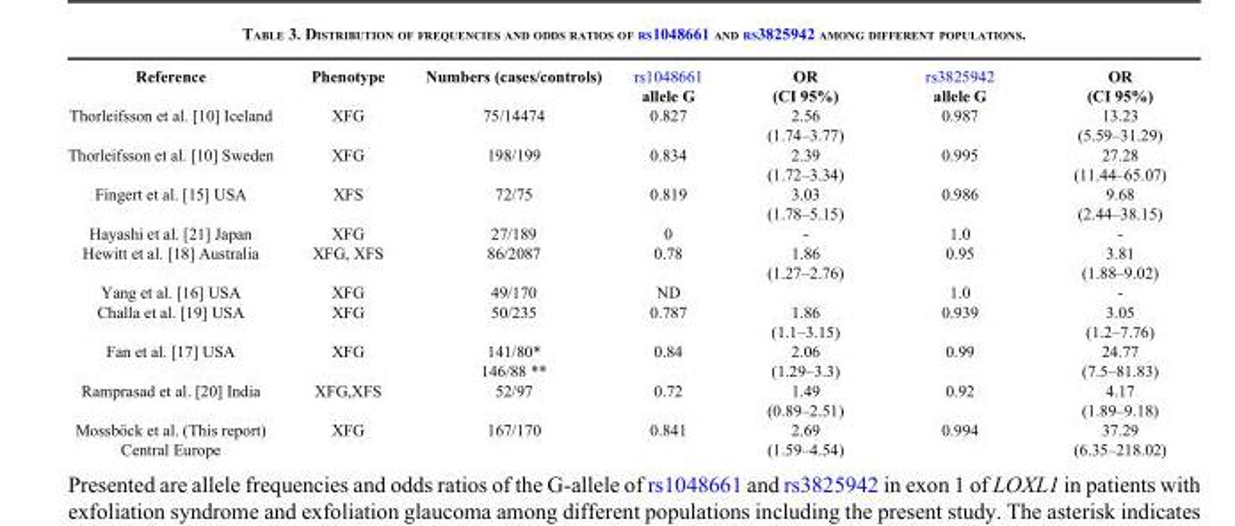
<table><tbody><tr><td>Reference</td><td>Phenotype</td><td>Numbers (cases/controls)</td><td>rs1048661 allele G</td><td>OR (CI 95%)</td><td>rs3825942 allele G</td><td>OR (CI 95%)</td></tr><tr><td>Thorleifsson et al. [10] Iceland</td><td>XFG</td><td>75/14474</td><td>0.827</td><td>2.56 (1.74–3.77)</td><td>0.987</td><td>13.23 (5.59–31.29)</td></tr><tr><td>Thorleifsson et al. [10] Sweden</td><td>XFG</td><td>198/199</td><td>0.834</td><td>2.39 (1.72–3.34)</td><td>0.995</td><td>27.28 (11.44–65.07)</td></tr><tr><td>Fingert et al. [15] USA</td><td>XFS</td><td>72/75</td><td>0.819</td><td>3.03 (1.78–5.15)</td><td>0.986</td><td>9.68 (2.44–38.15)</td></tr><tr><td>Hayashi et al. [21] Japan</td><td>XFG</td><td>27/189</td><td>0</td><td>-</td><td>1.0</td><td>-</td></tr><tr><td>Hewitt et al. [18] Australia</td><td>XFG, XFS</td><td>86/2087</td><td>0.78</td><td>1.86 (1.27–2.76)</td><td>0.95</td><td>3.81 (1.88–9.02)</td></tr><tr><td>Yang et al. [16] USA</td><td>XFG</td><td>49/170</td><td>ND</td><td></td><td>1.0</td><td>-</td></tr><tr><td>Challa et al. [19] USA</td><td>XFG</td><td>50/235</td><td>0.787</td><td>1.86 (1.1–3.15)</td><td>0.939</td><td>3.05 (1.2–7.76)</td></tr><tr><td>Fan et al. [17] USA</td><td>XFG</td><td>141/80* 146/88 **</td><td>0.84</td><td>2.06 (1.29–3.3)</td><td>0.99</td><td>24.77 (7.5–81.83)</td></tr><tr><td>Ramprasad et al. [20] India</td><td>XFG,XFS</td><td>52/97</td><td>0.72</td><td>1.49 (0.89–2.51)</td><td>0.92</td><td>4.17 (1.89–9.18)</td></tr><tr><td>Mossböck et al. (This report) Central Europe</td><td>XFG</td><td>167/170</td><td>0.841</td><td>2.69 (1.59–4.54)</td><td>0.994</td><td>37.29 (6.35–218.02)</td></tr></tbody></table>